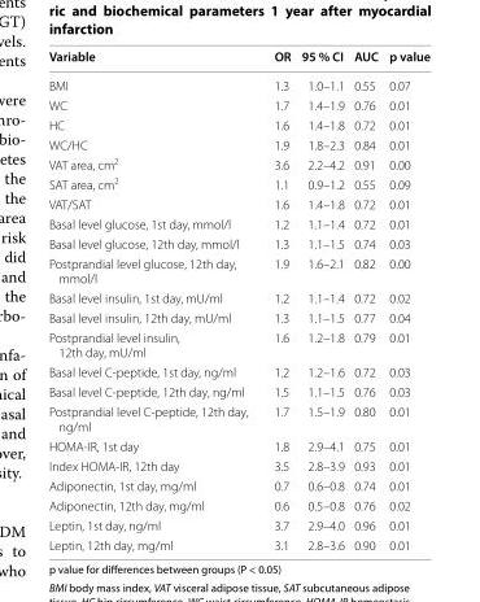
<table><thead><tr><td>Variable</td><td>OR</td><td>95 % CI</td><td>AUC</td><td>p value</td></tr></thead><tbody><tr><td>BMI</td><td>1.3</td><td>1.0–1.1</td><td>0.55</td><td>0.07</td></tr><tr><td>WC</td><td>1.7</td><td>1.4–1.9</td><td>0.76</td><td>0.01</td></tr><tr><td>HC</td><td>1.6</td><td>1.4–1.8</td><td>0.72</td><td>0.01</td></tr><tr><td>WC/HC</td><td>1.9</td><td>1.8–2.3</td><td>0.84</td><td>0.01</td></tr><tr><td>VAT area, cm<sup>2</sup></td><td>3.6</td><td>2.2–4.2</td><td>0.91</td><td>0.00</td></tr><tr><td>SAT area, cm<sup>2</sup></td><td>1.1</td><td>0.9–1.2</td><td>0.55</td><td>0.09</td></tr><tr><td>VAT/SAT</td><td>1.6</td><td>1.4–1.8</td><td>0.72</td><td>0.01</td></tr><tr><td>Basal level glucose, 1st day, mmol/l</td><td>1.2</td><td>1.1–1.4</td><td>0.72</td><td>0.01</td></tr><tr><td>Basal level glucose, 12th day, mmol/l</td><td>1.3</td><td>1.1–1.5</td><td>0.74</td><td>0.03</td></tr><tr><td>Postprandial level glucose, 12th day, mmol/l</td><td>1.9</td><td>1.6–2.1</td><td>0.82</td><td>0.00</td></tr><tr><td>Basal level insulin, 1st day, mU/ml</td><td>1.2</td><td>1.1–1.4</td><td>0.72</td><td>0.02</td></tr><tr><td>Basal level insulin, 12th day, mU/ml</td><td>1.3</td><td>1.1–1.5</td><td>0.77</td><td>0.04</td></tr><tr><td>Postprandial level insulin, 12th day, mU/ml</td><td>1.6</td><td>1.2–1.8</td><td>0.79</td><td>0.01</td></tr><tr><td>Basal level C-peptide, 1st day, ng/ml</td><td>1.2</td><td>1.2–1.6</td><td>0.72</td><td>0.03</td></tr><tr><td>Basal level C-peptide, 12th day, ng/ml</td><td>1.5</td><td>1.1–1.5</td><td>0.76</td><td>0.03</td></tr><tr><td>Postprandial level C-peptide, 12th day, ng/ml</td><td>1.7</td><td>1.5–1.9</td><td>0.80</td><td>0.01</td></tr><tr><td>HOMA-IR, 1st day</td><td>1.8</td><td>2.9–4.1</td><td>0.75</td><td>0.01</td></tr><tr><td>Index HOMA-IR, 12th day</td><td>3.5</td><td>2.8–3.9</td><td>0.93</td><td>0.01</td></tr><tr><td>Adiponectin, 1st day, mg/ml</td><td>0.7</td><td>0.6–0.8</td><td>0.74</td><td>0.01</td></tr><tr><td>Adiponectin, 12th day, mg/ml</td><td>0.6</td><td>0.5–0.8</td><td>0.76</td><td>0.02</td></tr><tr><td>Leptin, 1st day, ng/ml</td><td>3.7</td><td>2.9–4.0</td><td>0.96</td><td>0.01</td></tr><tr><td>Leptin, 12th day, mg/ml</td><td>3.1</td><td>2.8–3.6</td><td>0.90</td><td>0.01</td></tr></tbody></table>